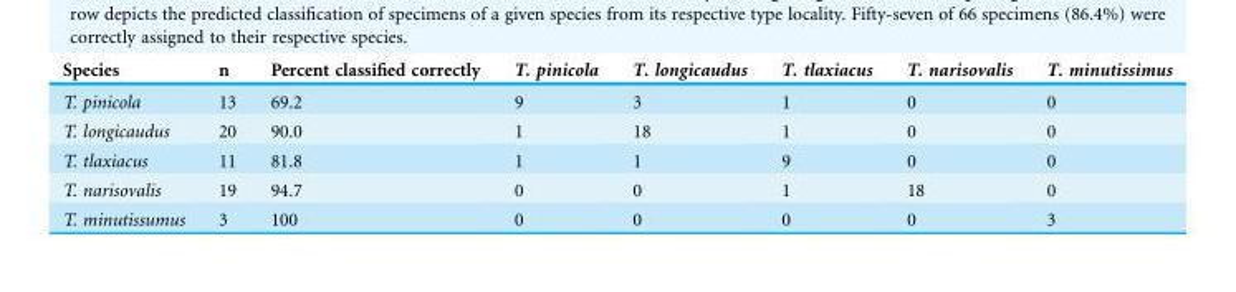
<table><thead><tr><td>Species</td><td>n</td><td>Percent classified correctly</td><td>T. pinicola</td><td>T. longicaudus</td><td>T. tlaxiacus</td><td>T. narisovalis</td><td>T. minutissimus</td></tr></thead><tbody><tr><td>T. pinicola</td><td>13</td><td>69.2</td><td>9</td><td>3</td><td>1</td><td>0</td><td>0</td></tr><tr><td>T. longicaudus</td><td>20</td><td>90.0</td><td>1</td><td>18</td><td>1</td><td>0</td><td>0</td></tr><tr><td>T. tlaxiacus</td><td>11</td><td>81.8</td><td>1</td><td>1</td><td>9</td><td>0</td><td>0</td></tr><tr><td>T. narisovalis</td><td>19</td><td>94.7</td><td>0</td><td>0</td><td>1</td><td>18</td><td>0</td></tr><tr><td>T. minutissumus</td><td>3</td><td>100</td><td>0</td><td>0</td><td>0</td><td>0</td><td>3</td></tr></tbody></table>